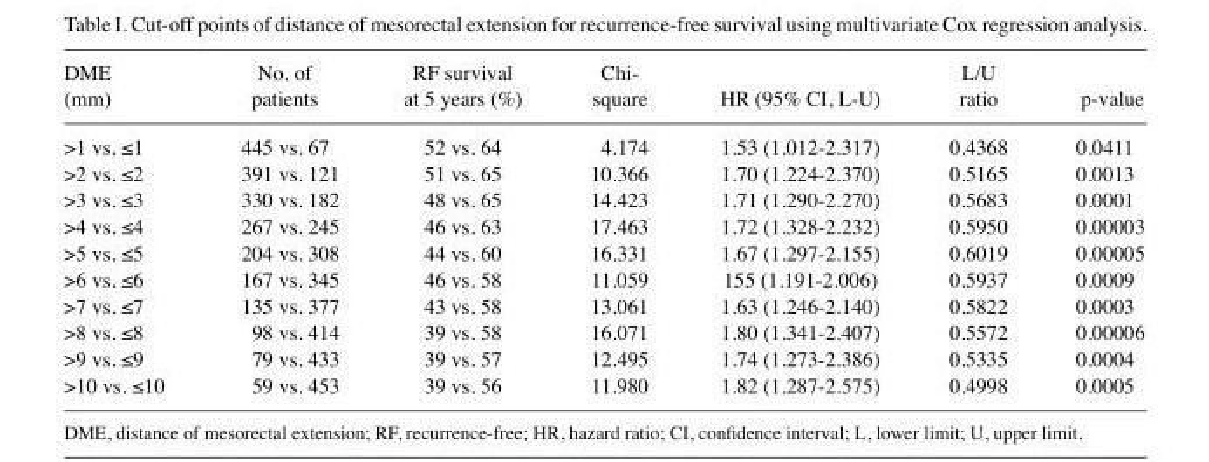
<table><thead><tr><td>DME (mm)</td><td>No. of patients</td><td>RF survival at 5 years (%)</td><td>Chi- square</td><td>HR (95% CI, L-U)</td><td>L/U ratio</td><td>p-value</td></tr></thead><tbody><tr><td>&gt;1 vs. ≤1</td><td>445 vs. 67</td><td>52 vs. 64</td><td>4.174</td><td>1.53 (1.012-2.317)</td><td>0.4368</td><td>0.0411</td></tr><tr><td>&gt;2 vs. ≤2</td><td>391 vs. 121</td><td>51 vs. 65</td><td>10.366</td><td>1.70 (1.224-2.370)</td><td>0.5165</td><td>0.0013</td></tr><tr><td>&gt;3 vs. ≤3</td><td>330 vs. 182</td><td>48 vs. 65</td><td>14.423</td><td>1.71 (1.290-2.270)</td><td>0.5683</td><td>0.0001</td></tr><tr><td>&gt;4 vs. ≤4</td><td>267 vs. 245</td><td>46 vs. 63</td><td>17.463</td><td>1.72 (1.328-2.232)</td><td>0.5950</td><td>0.00003</td></tr><tr><td>&gt;5 vs. ≤5</td><td>204 vs. 308</td><td>44 vs. 60</td><td>16.331</td><td>1.67 (1.297-2.155)</td><td>0.6019</td><td>0.00005</td></tr><tr><td>&gt;6 vs. ≤6</td><td>167 vs. 345</td><td>46 vs. 58</td><td>11.059</td><td>155 (1.191-2.006)</td><td>0.5937</td><td>0.0009</td></tr><tr><td>&gt;7 vs. ≤7</td><td>135 vs. 377</td><td>43 vs. 58</td><td>13.061</td><td>1.63 (1.246-2.140)</td><td>0.5822</td><td>0.0003</td></tr><tr><td>&gt;8 vs. ≤8</td><td>98 vs. 414</td><td>39 vs. 58</td><td>16.071</td><td>1.80 (1.341-2.407)</td><td>0.5572</td><td>0.00006</td></tr><tr><td>&gt;9 vs. ≤9</td><td>79 vs. 433</td><td>39 vs. 57</td><td>12.495</td><td>1.74 (1.273-2.386)</td><td>0.5335</td><td>0.0004</td></tr><tr><td>&gt;10 vs. ≤10</td><td>59 vs. 453</td><td>39 vs. 56</td><td>11.980</td><td>1.82 (1.287-2.575)</td><td>0.4998</td><td>0.0005</td></tr></tbody></table>